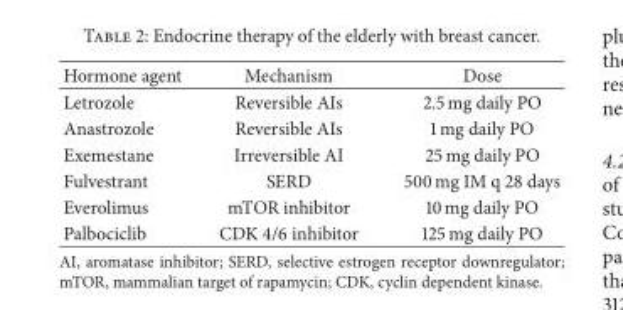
<table><thead><tr><td>Hormone agent</td><td>Mechanism</td><td>Dose</td></tr></thead><tbody><tr><td>Letrozole</td><td>Reversible AIs</td><td>2.5 mg daily PO</td></tr><tr><td>Anastrozole</td><td>Reversible AIs</td><td>1 mg daily PO</td></tr><tr><td>Exemestane</td><td>Irreversible AI</td><td>25 mg daily PO</td></tr><tr><td>Fulvestrant</td><td>SERD</td><td>500 mg IM q 28 days</td></tr><tr><td>Everolimus</td><td>mTOR inhibitor</td><td>10 mg daily PO</td></tr><tr><td>Palbociclib</td><td>CDK 4/6 inhibitor</td><td>125 mg daily PO</td></tr></tbody></table>